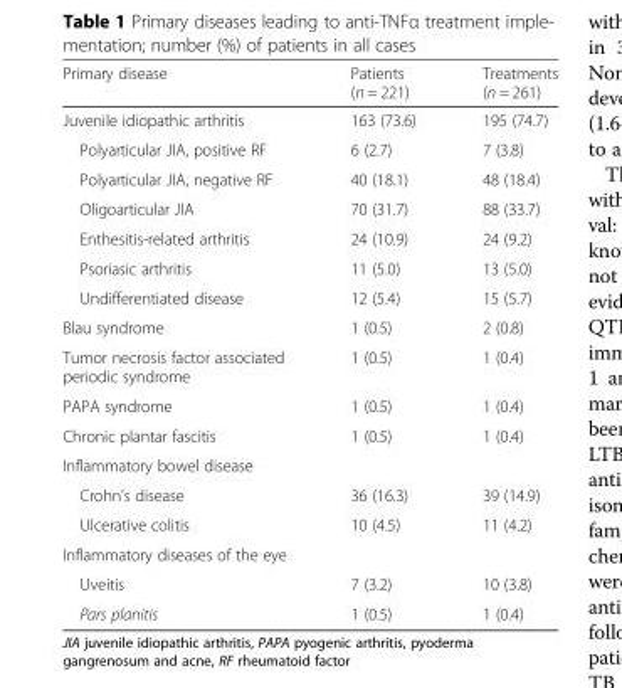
<table><thead><tr><td>Primary disease</td><td>Patients (n = 221)</td><td>Treatments (n = 261)</td></tr></thead><tbody><tr><td>Juvenile idiopathic arthritis</td><td>163 (73.6)</td><td>195 (74.7)</td></tr><tr><td>Polyarticular JIA, positive RF</td><td>6 (2.7)</td><td>7 (3.8)</td></tr><tr><td>Polyarticular JIA, negative RF</td><td>40 (18.1)</td><td>48 (18.4)</td></tr><tr><td>Oligoarticular JIA</td><td>70 (31.7)</td><td>88 (33.7)</td></tr><tr><td>Enthesitis-related arthritis</td><td>24 (10.9)</td><td>24 (9.2)</td></tr><tr><td>Psoriasic arthritis</td><td>11 (5.0)</td><td>13 (5.0)</td></tr><tr><td>Undifferentiated disease</td><td>12 (5.4)</td><td>15 (5.7)</td></tr><tr><td>Blau syndrome</td><td>1 (0.5)</td><td>2 (0.8)</td></tr><tr><td>Tumor necrosis factor associated periodic syndrome</td><td>1 (0.5)</td><td>1 (0.4)</td></tr><tr><td>PAPA syndrome</td><td>1 (0.5)</td><td>1 (0.4)</td></tr><tr><td>Chronic plantar fascitis</td><td>1 (0.5)</td><td>1 (0.4)</td></tr><tr><td colspan="3">Inflammatory bowel disease</td></tr><tr><td>Crohn’s disease</td><td>36 (16.3)</td><td>39 (14.9)</td></tr><tr><td>Ulcerative colitis</td><td>10 (4.5)</td><td>11 (4.2)</td></tr><tr><td colspan="3">Inflammatory diseases of the eye</td></tr><tr><td>Uveitis</td><td>7 (3.2)</td><td>10 (3.8)</td></tr><tr><td>Pars planitis</td><td>1 (0.5)</td><td>1 (0.4)</td></tr></tbody></table>